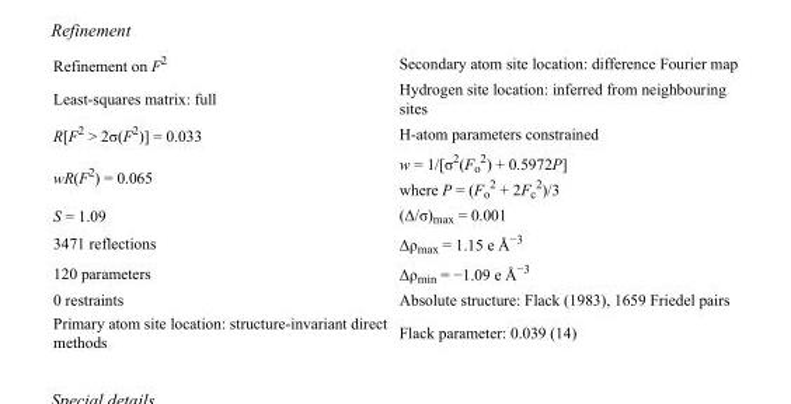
<table><tbody><tr><td>Refinement on F<sup>2</sup></td><td>Secondary atom site location: difference Fourier map</td></tr><tr><td>Least-squares matrix: full</td><td>Hydrogen site location: inferred from neighbouring sites</td></tr><tr><td>R[F<sup>2</sup> &gt; 2σ(F<sup>2</sup>)] = 0.033</td><td>H-atom parameters constrained</td></tr><tr><td>wR(F<sup>2</sup>) = 0.065</td><td>w = 1/[σ<sup>2</sup>(F<sub>o</sub> <sup>2</sup>) + 0.5972P] where P = (F<sub>o</sub> <sup>2</sup> + 2F<sub>c</sub> <sup>2</sup>)/3</td></tr><tr><td>S = 1.09</td><td>(Δ/σ)<sub>max</sub> = 0.001</td></tr><tr><td>3471 reflections</td><td>Δρ<sub>max</sub> = 1.15 e Å<sup>−3</sup></td></tr><tr><td>120 parameters</td><td>Δρ<sub>min</sub> = −1.09 e Å<sup>−3</sup></td></tr><tr><td>0 restraints</td><td>Absolute structure: Flack (1983), 1659 Friedel pairs</td></tr><tr><td>Primary atom site location: structure-invariant direct methods</td><td>Flack parameter: 0.039 (14)</td></tr></tbody></table>